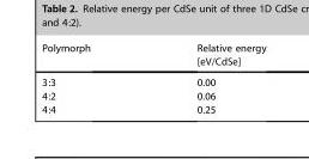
<table><thead><tr><td>Polymorph</td><td>Relative energy [eV/CdSe]</td></tr></thead><tbody><tr><td>3:3</td><td>0.00</td></tr><tr><td>4:2</td><td>0.06</td></tr><tr><td>4:4</td><td>0.25</td></tr></tbody></table>